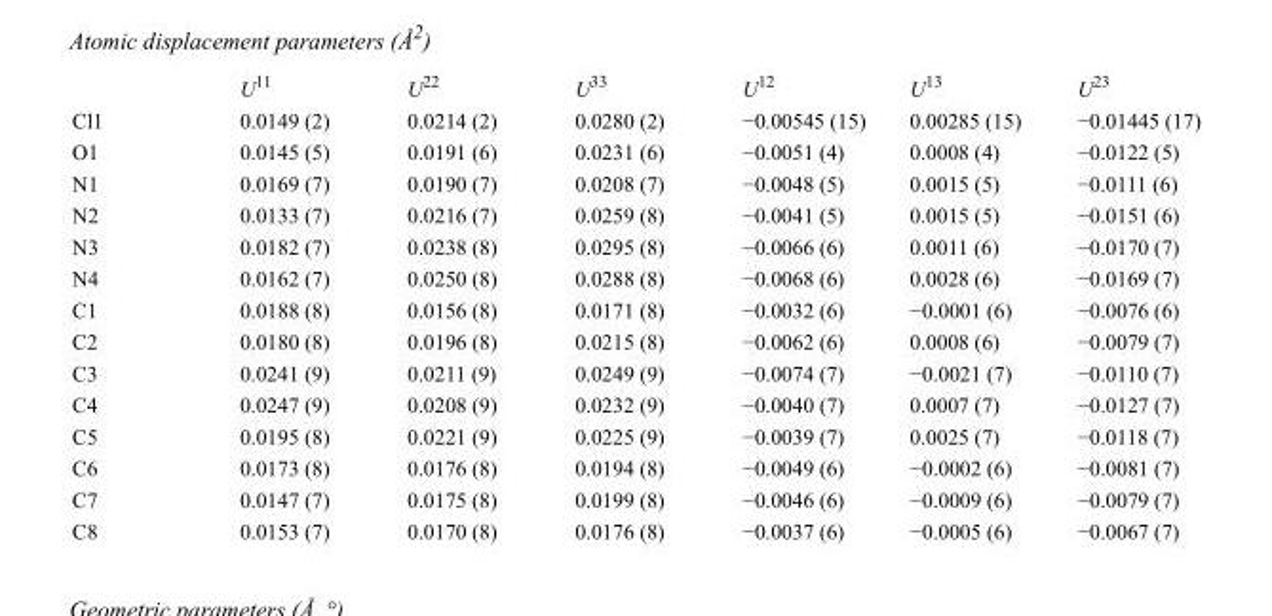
<table><thead><tr><td></td><td>U<sup>11</sup></td><td>U<sup>22</sup></td><td>U<sup>33</sup></td><td>U<sup>12</sup></td><td>U<sup>13</sup></td><td>U<sup>23</sup></td></tr></thead><tbody><tr><td>Cl1</td><td>0.0149 (2)</td><td>0.0214 (2)</td><td>0.0280 (2)</td><td>−0.00545 (15)</td><td>0.00285 (15)</td><td>−0.01445 (17)</td></tr><tr><td>O1</td><td>0.0145 (5)</td><td>0.0191 (6)</td><td>0.0231 (6)</td><td>−0.0051 (4)</td><td>0.0008 (4)</td><td>−0.0122 (5)</td></tr><tr><td>N1</td><td>0.0169 (7)</td><td>0.0190 (7)</td><td>0.0208 (7)</td><td>−0.0048 (5)</td><td>0.0015 (5)</td><td>−0.0111 (6)</td></tr><tr><td>N2</td><td>0.0133 (7)</td><td>0.0216 (7)</td><td>0.0259 (8)</td><td>−0.0041 (5)</td><td>0.0015 (5)</td><td>−0.0151 (6)</td></tr><tr><td>N3</td><td>0.0182 (7)</td><td>0.0238 (8)</td><td>0.0295 (8)</td><td>−0.0066 (6)</td><td>0.0011 (6)</td><td>−0.0170 (7)</td></tr><tr><td>N4</td><td>0.0162 (7)</td><td>0.0250 (8)</td><td>0.0288 (8)</td><td>−0.0068 (6)</td><td>0.0028 (6)</td><td>−0.0169 (7)</td></tr><tr><td>C1</td><td>0.0188 (8)</td><td>0.0156 (8)</td><td>0.0171 (8)</td><td>−0.0032 (6)</td><td>−0.0001 (6)</td><td>−0.0076 (6)</td></tr><tr><td>C2</td><td>0.0180 (8)</td><td>0.0196 (8)</td><td>0.0215 (8)</td><td>−0.0062 (6)</td><td>0.0008 (6)</td><td>−0.0079 (7)</td></tr><tr><td>C3</td><td>0.0241 (9)</td><td>0.0211 (9)</td><td>0.0249 (9)</td><td>−0.0074 (7)</td><td>−0.0021 (7)</td><td>−0.0110 (7)</td></tr><tr><td>C4</td><td>0.0247 (9)</td><td>0.0208 (9)</td><td>0.0232 (9)</td><td>−0.0040 (7)</td><td>0.0007 (7)</td><td>−0.0127 (7)</td></tr><tr><td>C5</td><td>0.0195 (8)</td><td>0.0221 (9)</td><td>0.0225 (9)</td><td>−0.0039 (7)</td><td>0.0025 (7)</td><td>−0.0118 (7)</td></tr><tr><td>C6</td><td>0.0173 (8)</td><td>0.0176 (8)</td><td>0.0194 (8)</td><td>−0.0049 (6)</td><td>−0.0002 (6)</td><td>−0.0081 (7)</td></tr><tr><td>C7</td><td>0.0147 (7)</td><td>0.0175 (8)</td><td>0.0199 (8)</td><td>−0.0046 (6)</td><td>−0.0009 (6)</td><td>−0.0079 (7)</td></tr><tr><td>C8</td><td>0.0153 (7)</td><td>0.0170 (8)</td><td>0.0176 (8)</td><td>−0.0037 (6)</td><td>−0.0005 (6)</td><td>−0.0067 (7)</td></tr></tbody></table>